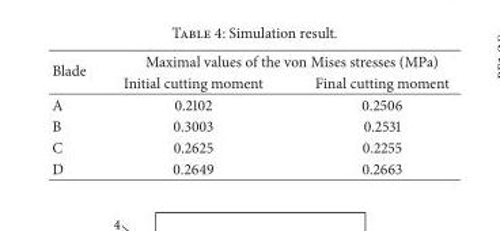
<table><thead><tr><td rowspan="2">Blade</td><td colspan="2">Maximal values of the von Mises stresses (MPa)</td></tr><tr><td>Initial cutting moment</td><td>Final cutting moment</td></tr></thead><tbody><tr><td>A</td><td>0.2102</td><td>0.2506</td></tr><tr><td>B</td><td>0.3003</td><td>0.2531</td></tr><tr><td>C</td><td>0.2625</td><td>0.2255</td></tr><tr><td>D</td><td>0.2649</td><td>0.2663</td></tr></tbody></table>